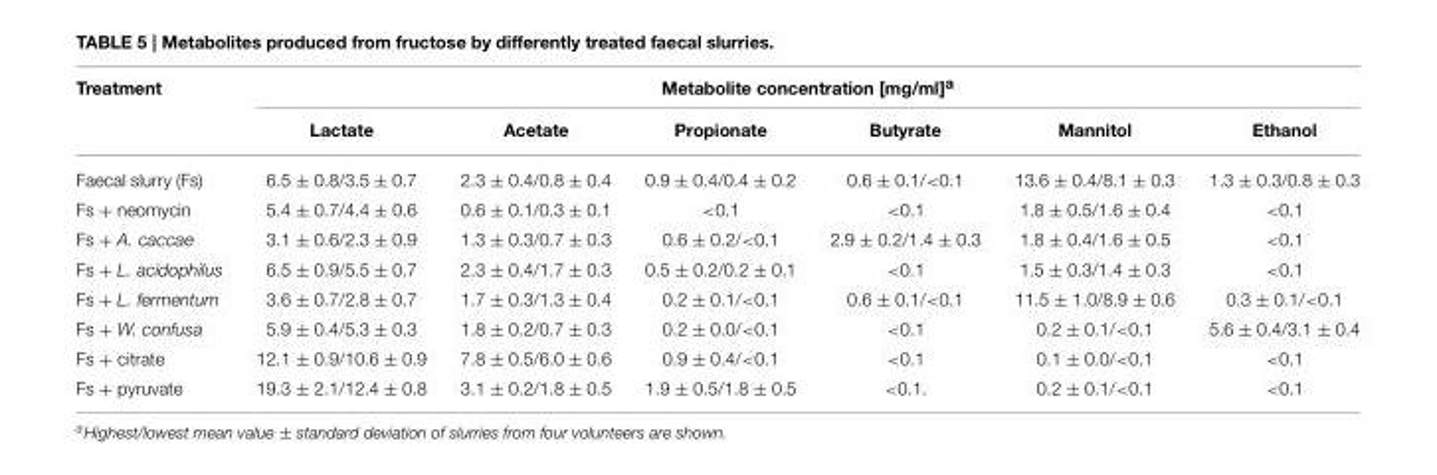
<table><thead><tr><td rowspan="2">Treatment</td><td colspan="6">Metabolite concentration [mg/ml]<sup>a</sup></td></tr><tr><td>Lactate</td><td>Acetate</td><td>Propionate</td><td>Butyrate</td><td>Mannitol</td><td>Ethanol</td></tr></thead><tbody><tr><td>Faecal slurry (Fs)</td><td>6.5 ± 0.8/3.5 ± 0.7</td><td>2.3 ± 0.4/0.8 ± 0.4</td><td>0.9 ± 0.4/0.4 ± 0.2</td><td>0.6 ± 0.1/&lt;0.1</td><td>13.6 ± 0.4/8.1 ± 0.3</td><td>1.3 ± 0.3/0.8 ± 0.3</td></tr><tr><td>Fs + neomycin</td><td>5.4 ± 0.7/4.4 ± 0.6</td><td>0.6 ± 0.1/0.3 ± 0.1</td><td>&lt;0.1</td><td>&lt;0.1</td><td>1.8 ± 0.5/1.6 ± 0.4</td><td>&lt;0.1</td></tr><tr><td>Fs + A. caccae</td><td>3.1 ± 0.6/2.3 ± 0.9</td><td>1.3 ± 0.3/0.7 ± 0.3</td><td>0.6 ± 0.2/&lt;0.1</td><td>2.9 ± 0.2/1.4 ± 0.3</td><td>1.8 ± 0.4/1.6 ± 0.5</td><td>&lt;0.1</td></tr><tr><td>Fs + L. acidophilus</td><td>6.5 ± 0.9/5.5 ± 0.7</td><td>2.3 ± 0.4/1.7 ± 0.3</td><td>0.5 ± 0.2/0.2 ± 0.1</td><td>&lt;0.1</td><td>1.5 ± 0.3/1.4 ± 0.3</td><td>&lt;0.1</td></tr><tr><td>Fs + L. fermentum</td><td>3.6 ± 0.7/2.8 ± 0.7</td><td>1.7 ± 0.3/1.3 ± 0.4</td><td>0.2 ± 0.1/&lt;0.1</td><td>0.6 ± 0.1/&lt;0.1</td><td>11.5 ± 1.0/8.9 ± 0.6</td><td>0.3 ± 0.1/&lt;0.1</td></tr><tr><td>Fs + W. confusa</td><td>5.9 ± 0.4/5.3 ± 0.3</td><td>1.8 ± 0.2/0.7 ± 0.3</td><td>0.2 ± 0.0/&lt;0.1</td><td>&lt;0.1</td><td>0.2 ± 0.1/&lt;0.1</td><td>5.6 ± 0.4/3.1 ± 0.4</td></tr><tr><td>Fs + citrate</td><td>12.1 ± 0.9/10.6 ± 0.9</td><td>7.8 ± 0.5/6.0 ± 0.6</td><td>0.9 ± 0.4/&lt;0.1</td><td>&lt;0.1</td><td>0.1 ± 0.0/&lt;0.1</td><td>&lt;0.1</td></tr><tr><td>Fs + pyruvate</td><td>19.3 ± 2.1/12.4 ± 0.8</td><td>3.1 ± 0.2/1.8 ± 0.5</td><td>1.9 ± 0.5/1.8 ± 0.5</td><td>&lt;0.1.</td><td>0.2 ± 0.1/&lt;0.1</td><td>&lt;0.1</td></tr></tbody></table>